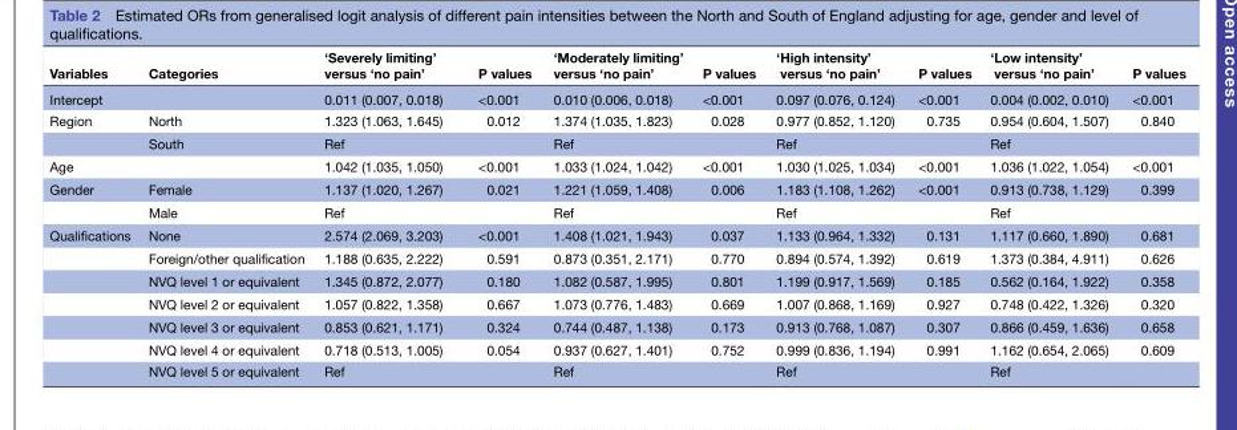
<table><thead><tr><td>Variables</td><td>Categories</td><td>‘Severely limiting’ versus ‘no pain’</td><td>P values</td><td>‘Moderately limiting’ versus ‘no pain’</td><td>P values</td><td>‘High intensity’ versus ‘no pain’</td><td>P values</td><td>‘Low intensity’ versus ‘no pain’</td><td>P values</td></tr></thead><tbody><tr><td>Intercept</td><td></td><td>0.011 (0.007, 0.018)</td><td>&lt;0.001</td><td>0.010 (0.006, 0.018)</td><td>&lt;0.001</td><td>0.097 (0.076, 0.124)</td><td>&lt;0.001</td><td>0.004 (0.002, 0.010)</td><td>&lt;0.001</td></tr><tr><td rowspan="2">Region</td><td>North</td><td>1.323 (1.063, 1.645)</td><td>0.012</td><td>1.374 (1.035, 1.823)</td><td>0.028</td><td>0.977 (0.852, 1.120)</td><td>0.735</td><td>0.954 (0.604, 1.507)</td><td>0.840</td></tr><tr><td>South</td><td>Ref</td><td></td><td>Ref</td><td></td><td>Ref</td><td></td><td>Ref</td><td></td></tr><tr><td>Age</td><td></td><td>1.042 (1.035, 1.050)</td><td>&lt;0.001</td><td>1.033 (1.024, 1.042)</td><td>&lt;0.001</td><td>1.030 (1.025, 1.034)</td><td>&lt;0.001</td><td>1.036 (1.022, 1.054)</td><td>&lt;0.001</td></tr><tr><td rowspan="2">Gender</td><td>Female</td><td>1.137 (1.020, 1.267)</td><td>0.021</td><td>1.221 (1.059, 1.408)</td><td>0.006</td><td>1.183 (1.108, 1.262)</td><td>&lt;0.001</td><td>0.913 (0.738, 1.129)</td><td>0.399</td></tr><tr><td>Male</td><td>Ref</td><td></td><td>Ref</td><td></td><td>Ref</td><td></td><td>Ref</td><td></td></tr><tr><td rowspan="7">Qualifications</td><td>None</td><td>2.574 (2.069, 3.203)</td><td>&lt;0.001</td><td>1.408 (1.021, 1.943)</td><td>0.037</td><td>1.133 (0.964, 1.332)</td><td>0.131</td><td>1.117 (0.660, 1.890)</td><td>0.681</td></tr><tr><td>Foreign/other qualification</td><td>1.188 (0.635, 2.222)</td><td>0.591</td><td>0.873 (0.351, 2.171)</td><td>0.770</td><td>0.894 (0.574, 1.392)</td><td>0.619</td><td>1.373 (0.384, 4.911)</td><td>0.626</td></tr><tr><td>NVQ level 1 or equivalent</td><td>1.345 (0.872, 2.077)</td><td>0.180</td><td>1.082 (0.587, 1.995)</td><td>0.801</td><td>1.199 (0.917, 1.569)</td><td>0.185</td><td>0.562 (0.164, 1.922)</td><td>0.358</td></tr><tr><td>NVQ level 2 or equivalent</td><td>1.057 (0.822, 1.358)</td><td>0.667</td><td>1.073 (0.776, 1.483)</td><td>0.669</td><td>1.007 (0.868, 1.169)</td><td>0.927</td><td>0.748 (0.422, 1.326)</td><td>0.320</td></tr><tr><td>NVQ level 3 or equivalent</td><td>0.853 (0.621, 1.171)</td><td>0.324</td><td>0.744 (0.487, 1.138)</td><td>0.173</td><td>0.913 (0.768, 1.087)</td><td>0.307</td><td>0.866 (0.459, 1.636)</td><td>0.658</td></tr><tr><td>NVQ level 4 or equivalent</td><td>0.718 (0.513, 1.005)</td><td>0.054</td><td>0.937 (0.627, 1.401)</td><td>0.752</td><td>0.999 (0.836, 1.194)</td><td>0.991</td><td>1.162 (0.654, 2.065)</td><td>0.609</td></tr><tr><td>NVQ level 5 or equivalent</td><td>Ref</td><td></td><td>Ref</td><td></td><td>Ref</td><td></td><td>Ref</td><td></td></tr></tbody></table>